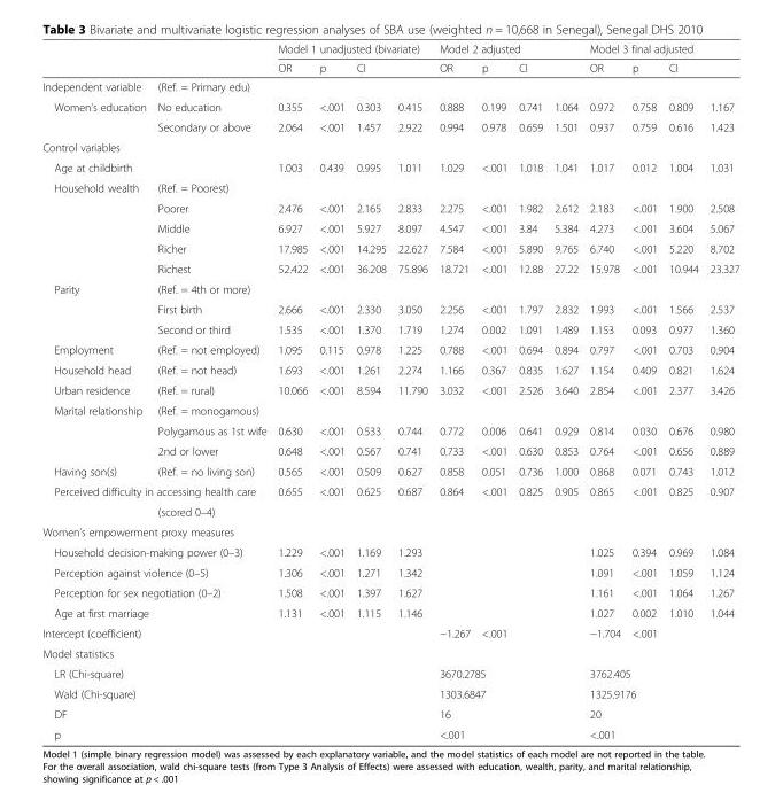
<table><thead><tr><td rowspan="3">Independent variable</td><td rowspan="3">(Ref. = Primary edu)</td><td colspan="4">Model 1 unadjusted (bivariate)</td><td colspan="4">Model 2 adjusted</td><td colspan="4">Model 3 final adjusted</td></tr><tr><td>OR</td><td>p</td><td colspan="2">CI</td><td>OR</td><td>p</td><td colspan="2">CI</td><td>OR</td><td>p</td><td colspan="2">CI</td></tr><tr><td colspan="2"></td><td></td><td></td><td colspan="2"></td><td></td><td></td><td colspan="2"></td><td></td><td></td></tr></thead><tbody><tr><td rowspan="2">Women’s education</td><td>No education</td><td>0.355</td><td>&lt;.001</td><td>0.303</td><td>0.415</td><td>0.888</td><td>0.199</td><td>0.741</td><td>1.064</td><td>0.972</td><td>0.758</td><td>0.809</td><td>1.167</td></tr><tr><td>Secondary or above</td><td>2.064</td><td>&lt;.001</td><td>1.457</td><td>2.922</td><td>0.994</td><td>0.978</td><td>0.659</td><td>1.501</td><td>0.937</td><td>0.759</td><td>0.616</td><td>1.423</td></tr><tr><td colspan="14">Control variables</td></tr><tr><td>Age at childbirth</td><td></td><td>1.003</td><td>0.439</td><td>0.995</td><td>1.011</td><td>1.029</td><td>&lt;.001</td><td>1.018</td><td>1.041</td><td>1.017</td><td>0.012</td><td>1.004</td><td>1.031</td></tr><tr><td rowspan="5">Household wealth</td><td>(Ref. = Poorest)</td><td colspan="2"></td><td></td><td></td><td colspan="2"></td><td></td><td></td><td colspan="2"></td><td></td><td></td></tr><tr><td>Poorer</td><td>2.476</td><td>&lt;.001</td><td>2.165</td><td>2.833</td><td>2.275</td><td>&lt;.001</td><td>1.982</td><td>2.612</td><td>2.183</td><td>&lt;.001</td><td>1.900</td><td>2.508</td></tr><tr><td>Middle</td><td>6.927</td><td>&lt;.001</td><td>5.927</td><td>8.097</td><td>4.547</td><td>&lt;.001</td><td>3.84</td><td>5.384</td><td>4.273</td><td>&lt;.001</td><td>3.604</td><td>5.067</td></tr><tr><td>Richer</td><td>17.985</td><td>&lt;.001</td><td>14.295</td><td>22.627</td><td>7.584</td><td>&lt;.001</td><td>5.890</td><td>9.765</td><td>6.740</td><td>&lt;.001</td><td>5.220</td><td>8.702</td></tr><tr><td>Richest</td><td>52.422</td><td>&lt;.001</td><td>36.208</td><td>75.896</td><td>18.721</td><td>&lt;.001</td><td>12.88</td><td>27.22</td><td>15.978</td><td>&lt;.001</td><td>10.944</td><td>23.327</td></tr><tr><td rowspan="3">Parity</td><td>(Ref. = 4th or more)</td><td colspan="2"></td><td></td><td></td><td colspan="2"></td><td></td><td></td><td colspan="2"></td><td></td><td></td></tr><tr><td>First birth</td><td>2.666</td><td>&lt;.001</td><td>2.330</td><td>3.050</td><td>2.256</td><td>&lt;.001</td><td>1.797</td><td>2.832</td><td>1.993</td><td>&lt;.001</td><td>1.566</td><td>2.537</td></tr><tr><td>Second or third</td><td>1.535</td><td>&lt;.001</td><td>1.370</td><td>1.719</td><td>1.274</td><td>0.002</td><td>1.091</td><td>1.489</td><td>1.153</td><td>0.093</td><td>0.977</td><td>1.360</td></tr><tr><td>Employment</td><td>(Ref. = not employed)</td><td>1.095</td><td>0.115</td><td>0.978</td><td>1.225</td><td>0.788</td><td>&lt;.001</td><td>0.694</td><td>0.894</td><td>0.797</td><td>&lt;.001</td><td>0.703</td><td>0.904</td></tr><tr><td>Household head</td><td>(Ref. = not head)</td><td>1.693</td><td>&lt;.001</td><td>1.261</td><td>2.274</td><td>1.166</td><td>0.367</td><td>0.835</td><td>1.627</td><td>1.154</td><td>0.409</td><td>0.821</td><td>1.624</td></tr><tr><td>Urban residence</td><td>(Ref. = rural)</td><td>10.066</td><td>&lt;.001</td><td>8.594</td><td>11.790</td><td>3.032</td><td>&lt;.001</td><td>2.526</td><td>3.640</td><td>2.854</td><td>&lt;.001</td><td>2.377</td><td>3.426</td></tr><tr><td rowspan="3">Marital relationship</td><td>(Ref. = monogamous)</td><td colspan="2"></td><td></td><td></td><td colspan="2"></td><td></td><td></td><td colspan="2"></td><td></td><td></td></tr><tr><td>Polygamous as 1st wife</td><td>0.630</td><td>&lt;.001</td><td>0.533</td><td>0.744</td><td>0.772</td><td>0.006</td><td>0.641</td><td>0.929</td><td>0.814</td><td>0.030</td><td>0.676</td><td>0.980</td></tr><tr><td>2nd or lower</td><td>0.648</td><td>&lt;.001</td><td>0.567</td><td>0.741</td><td>0.733</td><td>&lt;.001</td><td>0.630</td><td>0.853</td><td>0.764</td><td>&lt;.001</td><td>0.656</td><td>0.889</td></tr><tr><td>Having son(s)</td><td>(Ref. = no living son)</td><td>0.565</td><td>&lt;.001</td><td>0.509</td><td>0.627</td><td>0.858</td><td>0.051</td><td>0.736</td><td>1.000</td><td>0.868</td><td>0.071</td><td>0.743</td><td>1.012</td></tr><tr><td colspan="2">Perceived difficulty in accessing health care</td><td>0.655</td><td>&lt;.001</td><td>0.625</td><td>0.687</td><td>0.864</td><td>&lt;.001</td><td>0.825</td><td>0.905</td><td>0.865</td><td>&lt;.001</td><td>0.825</td><td>0.907</td></tr><tr><td></td><td>(scored 0–4)</td><td colspan="2"></td><td></td><td></td><td colspan="2"></td><td></td><td></td><td colspan="2"></td><td></td><td></td></tr><tr><td colspan="14">Women’s empowerment proxy measures</td></tr><tr><td colspan="2">Household decision-making power (0–3)</td><td>1.229</td><td>&lt;.001</td><td>1.169</td><td>1.293</td><td colspan="2"></td><td></td><td></td><td>1.025</td><td>0.394</td><td>0.969</td><td>1.084</td></tr><tr><td colspan="2">Perception against violence (0–5)</td><td>1.306</td><td>&lt;.001</td><td>1.271</td><td>1.342</td><td colspan="2"></td><td></td><td></td><td>1.091</td><td>&lt;.001</td><td>1.059</td><td>1.124</td></tr><tr><td colspan="2">Perception for sex negotiation (0–2)</td><td>1.508</td><td>&lt;.001</td><td>1.397</td><td>1.627</td><td colspan="2"></td><td></td><td></td><td>1.161</td><td>&lt;.001</td><td>1.064</td><td>1.267</td></tr><tr><td colspan="2">Age at first marriage</td><td>1.131</td><td>&lt;.001</td><td>1.115</td><td>1.146</td><td colspan="2"></td><td></td><td></td><td>1.027</td><td>0.002</td><td>1.010</td><td>1.044</td></tr><tr><td>Intercept (coefficient)</td><td></td><td colspan="2"></td><td></td><td></td><td>−1.267</td><td>&lt;.001</td><td></td><td></td><td>−1.704</td><td>&lt;.001</td><td></td><td></td></tr><tr><td colspan="14">Model statistics</td></tr><tr><td>LR (Chi-square)</td><td></td><td colspan="4"></td><td colspan="4">3670.2785</td><td colspan="4">3762.405</td></tr><tr><td>Wald (Chi-square)</td><td></td><td colspan="4"></td><td colspan="4">1303.6847</td><td colspan="4">1325.9176</td></tr><tr><td>DF</td><td></td><td colspan="4"></td><td colspan="4">16</td><td colspan="4">20</td></tr><tr><td>p</td><td></td><td colspan="4"></td><td colspan="4">&lt;.001</td><td colspan="4">&lt;.001</td></tr></tbody></table>